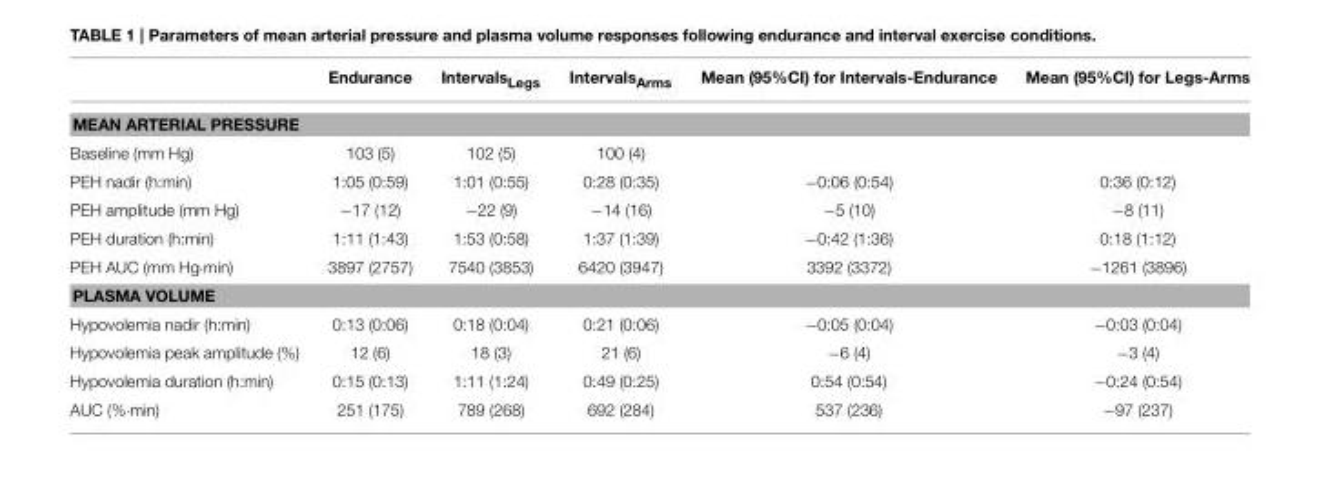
<table><thead><tr><td></td><td>Endurance</td><td>Intervals<sub>Legs</sub></td><td>Intervals<sub>Arms</sub></td><td>Mean (95%CI) for Intervals-Endurance</td><td>Mean (95%CI) for Legs-Arms</td></tr></thead><tbody><tr><td colspan="6">MEAN ARTERIAL PRESSURE</td></tr><tr><td>Baseline (mm Hg)</td><td>103 (5)</td><td>102 (5)</td><td>100 (4)</td><td></td><td></td></tr><tr><td>PEH nadir (h:min)</td><td>1:05 (0:59)</td><td>1:01 (0:55)</td><td>0:28 (0:35)</td><td>−0:06 (0:54)</td><td>0:36 (0:12)</td></tr><tr><td>PEH amplitude (mm Hg)</td><td>−17 (12)</td><td>−22 (9)</td><td>−14 (16)</td><td>−5 (10)</td><td>−8 (11)</td></tr><tr><td>PEH duration (h:min)</td><td>1:11 (1:43)</td><td>1:53 (0:58)</td><td>1:37 (1:39)</td><td>−0:42 (1:36)</td><td>0:18 (1:12)</td></tr><tr><td>PEH AUC (mm Hg·min)</td><td>3897 (2757)</td><td>7540 (3853)</td><td>6420 (3947)</td><td>3392 (3372)</td><td>−1261 (3896)</td></tr><tr><td colspan="6">PLASMA VOLUME</td></tr><tr><td>Hypovolemia nadir (h:min)</td><td>0:13 (0:06)</td><td>0:18 (0:04)</td><td>0:21 (0:06)</td><td>−0:05 (0:04)</td><td>−0:03 (0:04)</td></tr><tr><td>Hypovolemia peak amplitude (%)</td><td>12 (6)</td><td>18 (3)</td><td>21 (6)</td><td>−6 (4)</td><td>−3 (4)</td></tr><tr><td>Hypovolemia duration (h:min)</td><td>0:15 (0:13)</td><td>1:11 (1:24)</td><td>0:49 (0:25)</td><td>0:54 (0:54)</td><td>−0:24 (0:54)</td></tr><tr><td>AUC (%·min)</td><td>251 (175)</td><td>789 (268)</td><td>692 (284)</td><td>537 (236)</td><td>−97 (237)</td></tr></tbody></table>